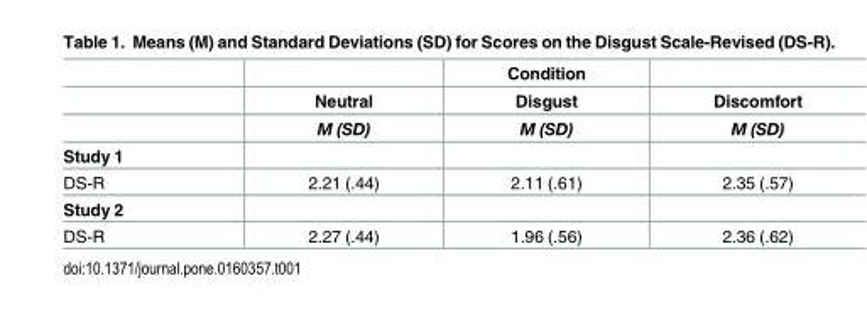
<table><thead><tr><td rowspan="3"></td><td rowspan="3">Neutral M (SD)</td><td rowspan="3">Condition Disgust M (SD)</td><td rowspan="3">Discomfort M (SD)</td></tr><tr></tr><tr></tr></thead><tbody><tr><td colspan="4">Study 1</td></tr><tr><td>DS-R</td><td>2.21 (.44)</td><td>2.11 (.61)</td><td>2.35 (.57)</td></tr><tr><td colspan="4">Study 2</td></tr><tr><td>DS-R</td><td>2.27 (.44)</td><td>1.96 (.56)</td><td>2.36 (.62)</td></tr></tbody></table>